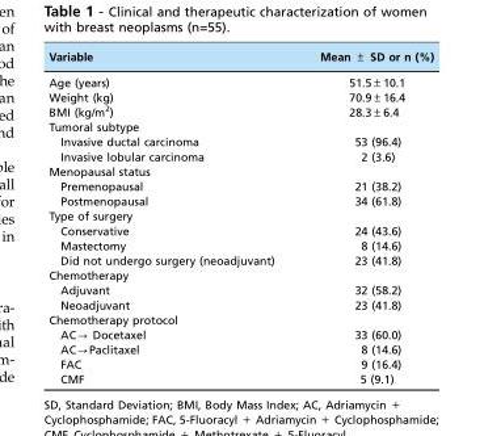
<table><thead><tr><td>Variable</td><td>Mean ± SD or n (%)</td></tr></thead><tbody><tr><td>Age (years)</td><td>51.5±10.1</td></tr><tr><td>Weight (kg)</td><td>70.9±16.4</td></tr><tr><td>BMI (kg/m<sup>2</sup>)</td><td>28.3±6.4</td></tr><tr><td colspan="2">Tumoral subtype</td></tr><tr><td>Invasive ductal carcinoma</td><td>53 (96.4)</td></tr><tr><td>Invasive lobular carcinoma</td><td>2 (3.6)</td></tr><tr><td colspan="2">Menopausal status</td></tr><tr><td>Premenopausal</td><td>21 (38.2)</td></tr><tr><td>Postmenopausal</td><td>34 (61.8)</td></tr><tr><td colspan="2">Type of surgery</td></tr><tr><td>Conservative</td><td>24 (43.6)</td></tr><tr><td>Mastectomy</td><td>8 (14.6)</td></tr><tr><td>Did not undergo surgery (neoadjuvant)</td><td>23 (41.8)</td></tr><tr><td colspan="2">Chemotherapy</td></tr><tr><td>Adjuvant</td><td>32 (58.2)</td></tr><tr><td>Neoadjuvant</td><td>23 (41.8)</td></tr><tr><td colspan="2">Chemotherapy protocol</td></tr><tr><td>AC- Docetaxel</td><td>33 (60.0)</td></tr><tr><td>AC-Paclitaxel</td><td>8 (14.6)</td></tr><tr><td>FAC</td><td>9 (16.4)</td></tr><tr><td>CMF</td><td>5 (9.1)</td></tr></tbody></table>